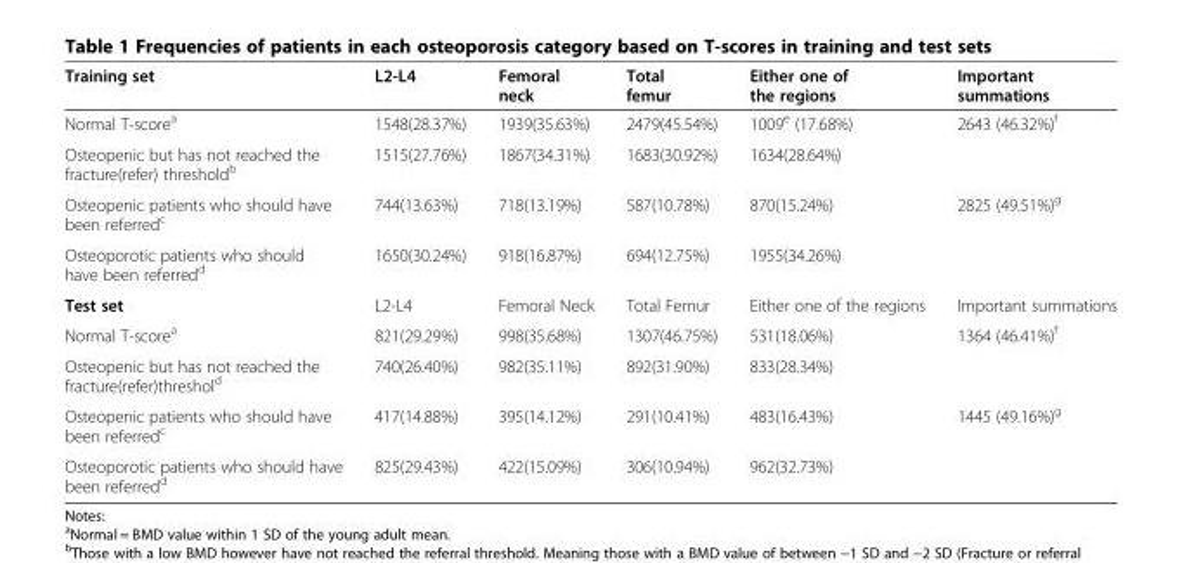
<table><thead><tr><td>Training set</td><td>L2-L4</td><td>Femoral neck</td><td>Total femur</td><td>Either one of the regions</td><td>Important summations</td></tr></thead><tbody><tr><td>Normal T-score<sup>a</sup></td><td>1548(28.37%)</td><td>1939(35.63%)</td><td>2479(45.54%)</td><td>1009<sup>e</sup> (17.68%)</td><td rowspan="2">2643 (46.32%)<sup>f</sup></td></tr><tr><td>Osteopenic but has not reached the fracture(refer) threshold<sup>b</sup></td><td>1515(27.76%)</td><td>1867(34.31%)</td><td>1683(30.92%)</td><td>1634(28.64%)</td></tr><tr><td>Osteopenic patients who should have been referred<sup>c</sup></td><td>744(13.63%)</td><td>718(13.19%)</td><td>587(10.78%)</td><td>870(15.24%)</td><td rowspan="2">2825 (49.51%)<sup>g</sup></td></tr><tr><td>Osteoporotic patients who should have been referred<sup>d</sup></td><td>1650(30.24%)</td><td>918(16.87%)</td><td>694(12.75%)</td><td>1955(34.26%)</td></tr><tr><td>Test set</td><td>L2-L4</td><td>Femoral Neck</td><td>Total Femur</td><td>Either one of the regions</td><td>Important summations</td></tr><tr><td>Normal T-score<sup>a</sup></td><td>821(29.29%)</td><td>998(35.68%)</td><td>1307(46.75%)</td><td>531(18.06%)</td><td rowspan="2">1364 (46.41%)<sup>f</sup></td></tr><tr><td>Osteopenic but has not reached the fracture(refer)threshol<sup>d</sup></td><td>740(26.40%)</td><td>982(35.11%)</td><td>892(31.90%)</td><td>833(28.34%)</td></tr><tr><td>Osteopenic patients who should have been referred<sup>c</sup></td><td>417(14.88%)</td><td>395(14.12%)</td><td>291(10.41%)</td><td>483(16.43%)</td><td rowspan="2">1445 (49.16%)<sup>g</sup></td></tr><tr><td>Osteoporotic patients who should have been referred<sup>d</sup></td><td>825(29.43%)</td><td>422(15.09%)</td><td>306(10.94%)</td><td>962(32.73%)</td></tr></tbody></table>